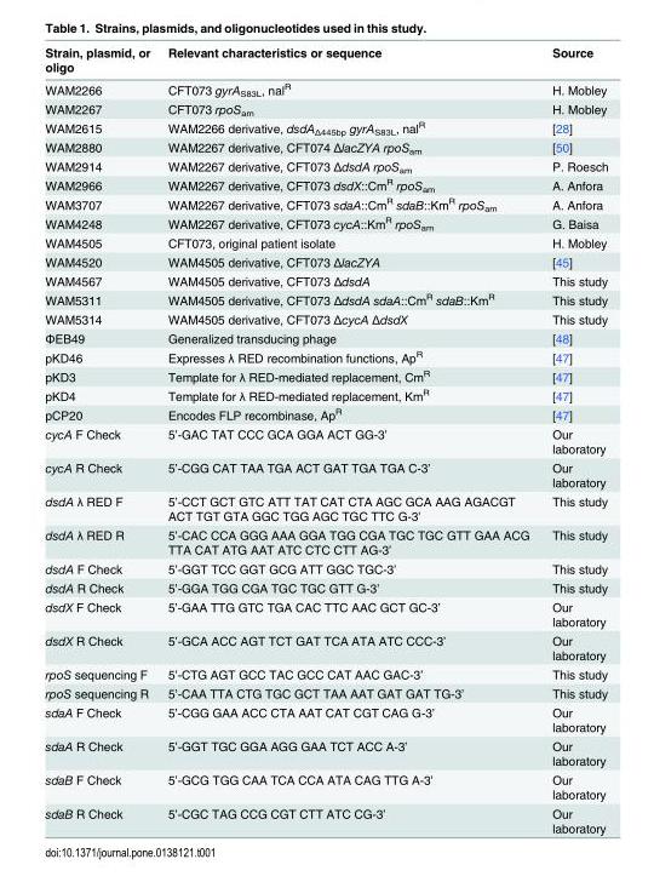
<table><thead><tr><td>Strain, plasmid, or oligo</td><td>Relevant characteristics or sequence</td><td>Source</td></tr></thead><tbody><tr><td>WAM2266</td><td>CFT073 gyrA<sub>S83L</sub>, nal<sup>R</sup></td><td>H. Mobley</td></tr><tr><td>WAM2267</td><td>CFT073 rpoS<sub>am</sub></td><td>H. Mobley</td></tr><tr><td>WAM2615</td><td>WAM2266 derivative, dsdA<sub>Δ445bp</sub> gyrA<sub>S83L</sub>, nal<sup>R</sup></td><td>[28]</td></tr><tr><td>WAM2880</td><td>WAM2267 derivative, CFT074 ΔlacZYA rpoS<sub>am</sub></td><td>[50]</td></tr><tr><td>WAM2914</td><td>WAM2267 derivative, CFT073 ΔdsdA rpoS<sub>am</sub></td><td>P. Roesch</td></tr><tr><td>WAM2966</td><td>WAM2267 derivative, CFT073 dsdX::Cm<sup>R</sup> rpoS<sub>am</sub></td><td>A. Anfora</td></tr><tr><td>WAM3707</td><td>WAM2267 derivative, CFT073 sdaA::Cm<sup>R</sup> sdaB::Km<sup>R</sup> rpoS<sub>am</sub></td><td>A. Anfora</td></tr><tr><td>WAM4248</td><td>WAM2267 derivative, CFT073 cycA::Km<sup>R</sup> rpoS<sub>am</sub></td><td>G. Baisa</td></tr><tr><td>WAM4505</td><td>CFT073, original patient isolate</td><td>H. Mobley</td></tr><tr><td>WAM4520</td><td>WAM4505 derivative, CFT073 ΔlacZYA</td><td>[45]</td></tr><tr><td>WAM4567</td><td>WAM4505 derivative, CFT073 ΔdsdA</td><td>This study</td></tr><tr><td>WAM5311</td><td>WAM4505 derivative, CFT073 ΔdsdA sdaA::Cm<sup>R</sup> sdaB::Km<sup>R</sup></td><td>This study</td></tr><tr><td>WAM5314</td><td>WAM4505 derivative, CFT073 ΔcycA ΔdsdX</td><td>This study</td></tr><tr><td>ΦEB49</td><td>Generalized transducing phage</td><td>[48]</td></tr><tr><td>pKD46</td><td>Expresses λ RED recombination functions, Ap<sup>R</sup></td><td>[47]</td></tr><tr><td>pKD3</td><td>Template for λ RED-mediated replacement, Cm<sup>R</sup></td><td>[47]</td></tr><tr><td>pKD4</td><td>Template for λ RED-mediated replacement, Km<sup>R</sup></td><td>[47]</td></tr><tr><td>pCP20</td><td>Encodes FLP recombinase, Ap<sup>R</sup></td><td>[47]</td></tr><tr><td>cycA F Check</td><td>5’-GAC TAT CCC GCA GGA ACT GG-3’</td><td>Our laboratory</td></tr><tr><td>cycA R Check</td><td>5’-CGG CAT TAA TGA ACT GAT TGA TGA C-3’</td><td>Our laboratory</td></tr><tr><td>dsdA λ RED F</td><td>5’-CCT GCT GTC ATT TAT CAT CTA AGC GCA AAG AGACGT ACT TGT GTA GGC TGG AGC TGC TTC G-3’</td><td>This study</td></tr><tr><td>dsdA λ RED R</td><td>5’-CAC CCA GGG AAA GGA TGG CGA TGC TGC GTT GAA ACG TTA CAT ATG AAT ATC CTC CTT AG-3’</td><td>This study</td></tr><tr><td>dsdA F Check</td><td>5’-GGT TCC GGT GCG ATT GGC TGC-3’</td><td>This study</td></tr><tr><td>dsdA R Check</td><td>5’-GGA TGG CGA TGC TGC GTT G-3’</td><td>This study</td></tr><tr><td>dsdX F Check</td><td>5’-GAA TTG GTC TGA CAC TTC AAC GCT GC-3’</td><td>Our laboratory</td></tr><tr><td>dsdX R Check</td><td>5’-GCA ACC AGT TCT GAT TCA ATA ATC CCC-3’</td><td>Our laboratory</td></tr><tr><td>rpoS sequencing F</td><td>5’-CTG AGT GCC TAC GCC CAT AAC GAC-3’</td><td>This study</td></tr><tr><td>rpoS sequencing R</td><td>5’-CAA TTA CTG TGC GCT TAA AAT GAT GAT TG-3’</td><td>This study</td></tr><tr><td>sdaA F Check</td><td>5’-CGG GAA ACC CTA AAT CAT CGT CAG G-3’</td><td>Our laboratory</td></tr><tr><td>sdaA R Check</td><td>5’-GGT TGC GGA AGG GAA TCT ACC A-3’</td><td>Our laboratory</td></tr><tr><td>sdaB F Check</td><td>5’-GCG TGG CAA TCA CCA ATA CAG TTG A-3’</td><td>Our laboratory</td></tr><tr><td>sdaB R Check</td><td>5’-CGC TAG CCG CGT CTT ATC CG-3’</td><td>Our laboratory</td></tr></tbody></table>